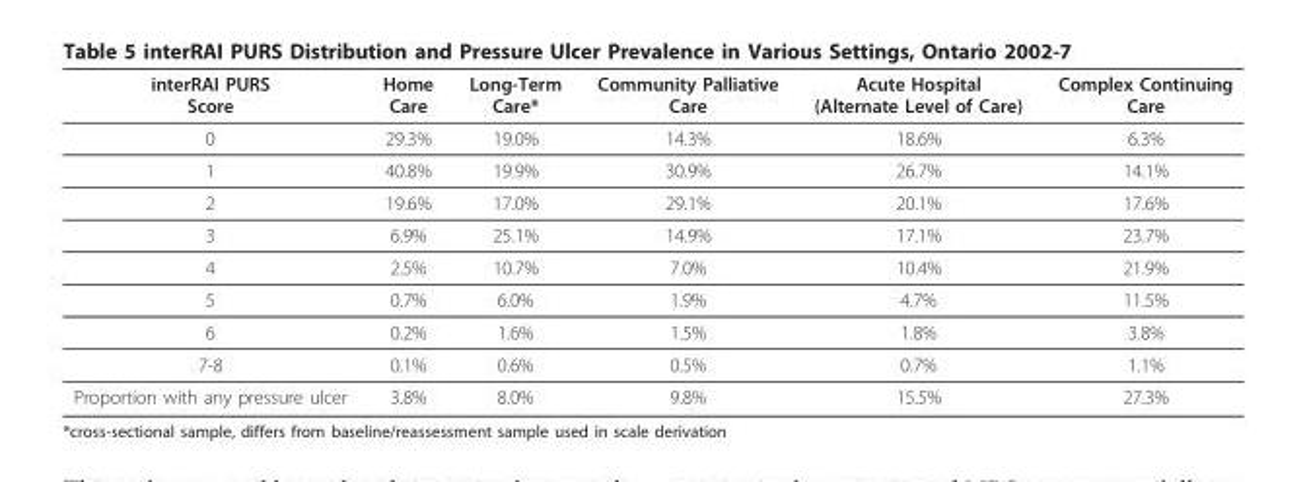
<table><thead><tr><td>interRAI PURS Score</td><td>Home Care</td><td>Long-Term Care*</td><td>Community Palliative Care</td><td>Acute Hospital (Alternate Level of Care)</td><td>Complex Continuing Care</td></tr></thead><tbody><tr><td>0</td><td>29.3%</td><td>19.0%</td><td>14.3%</td><td>18.6%</td><td>6.3%</td></tr><tr><td>1</td><td>40.8%</td><td>19.9%</td><td>30.9%</td><td>26.7%</td><td>14.1%</td></tr><tr><td>2</td><td>19.6%</td><td>17.0%</td><td>29.1%</td><td>20.1%</td><td>17.6%</td></tr><tr><td>3</td><td>6.9%</td><td>25.1%</td><td>14.9%</td><td>17.1%</td><td>23.7%</td></tr><tr><td>4</td><td>2.5%</td><td>10.7%</td><td>7.0%</td><td>10.4%</td><td>21.9%</td></tr><tr><td>5</td><td>0.7%</td><td>6.0%</td><td>1.9%</td><td>4.7%</td><td>11.5%</td></tr><tr><td>6</td><td>0.2%</td><td>1.6%</td><td>1.5%</td><td>1.8%</td><td>3.8%</td></tr><tr><td>7-8</td><td>0.1%</td><td>0.6%</td><td>0.5%</td><td>0.7%</td><td>1.1%</td></tr><tr><td>Proportion with any pressure ulcer</td><td>3.8%</td><td>8.0%</td><td>9.8%</td><td>15.5%</td><td>27.3%</td></tr></tbody></table>